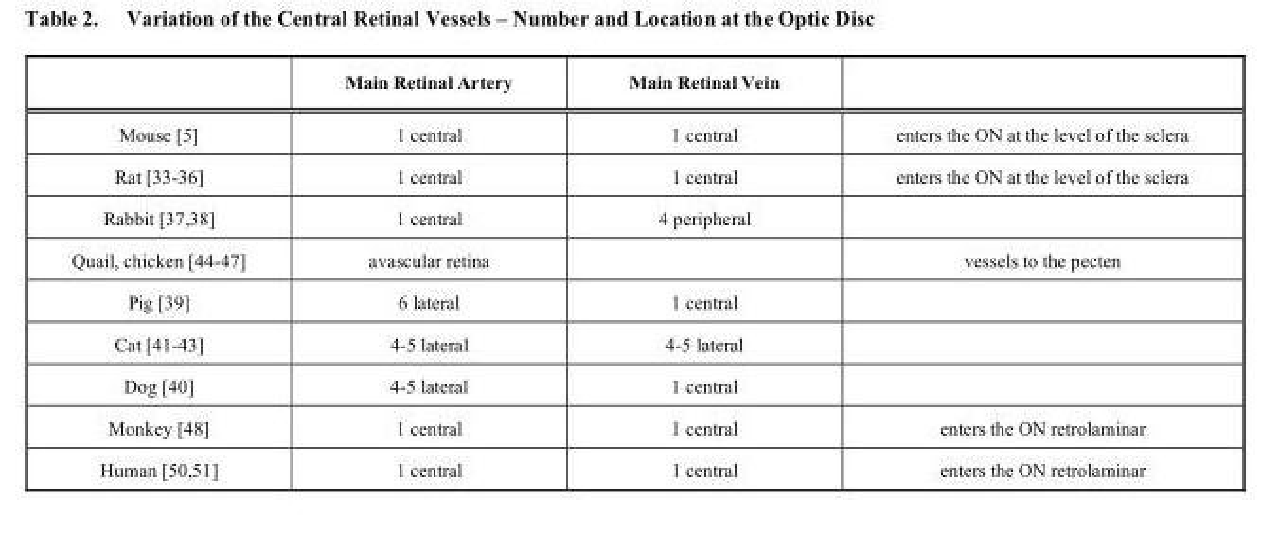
<table><thead><tr><td></td><td>Main Retinal Artery</td><td>Main Retinal Vein</td><td></td></tr></thead><tbody><tr><td>Mouse [5]</td><td>1 central</td><td>1 central</td><td>enters the ON at the level of the sclera</td></tr><tr><td>Rat [33-36]</td><td>1 central</td><td>1 central</td><td>enters the ON at the level of the sclera</td></tr><tr><td>Rabbit [37,38]</td><td>1 central</td><td>4 peripheral</td><td></td></tr><tr><td>Quail, chicken [44-47]</td><td>avascular retina</td><td></td><td>vessels to the pecten</td></tr><tr><td>Pig [39]</td><td>6 lateral</td><td>1 central</td><td></td></tr><tr><td>Cat [41-43]</td><td>4-5 lateral</td><td>4-5 lateral</td><td></td></tr><tr><td>Dog [40]</td><td>4-5 lateral</td><td>1 central</td><td></td></tr><tr><td>Monkey [48]</td><td>1 central</td><td>1 central</td><td>enters the ON retrolaminar</td></tr><tr><td>Human [50,51]</td><td>1 central</td><td>1 central</td><td>enters the ON retrolaminar</td></tr></tbody></table>